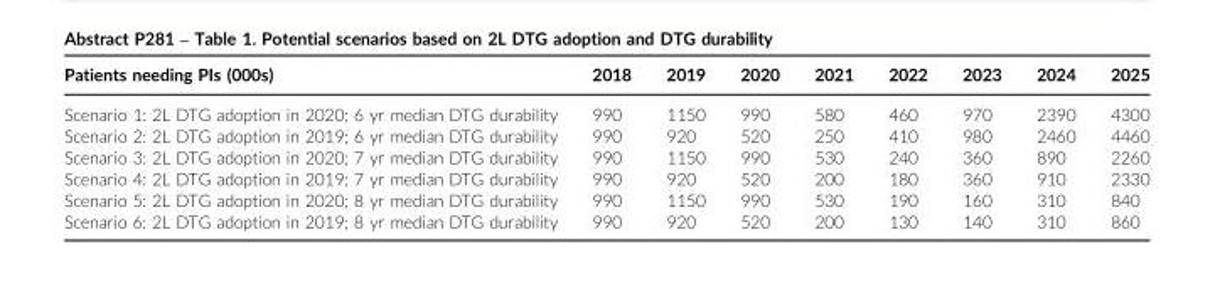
<table><thead><tr><td>Patients needing PIs (000s)</td><td>2018</td><td>2019</td><td>2020</td><td>2021</td><td>2022</td><td>2023</td><td>2024</td><td>2025</td></tr></thead><tbody><tr><td>Scenario 1: 2L DTG adoption in 2020; 6 yr median DTG durability</td><td>990</td><td>1150</td><td>990</td><td>580</td><td>460</td><td>970</td><td>2390</td><td>4300</td></tr><tr><td>Scenario 2: 2L DTG adoption in 2019; 6 yr median DTG durability</td><td>990</td><td>920</td><td>520</td><td>250</td><td>410</td><td>980</td><td>2460</td><td>4460</td></tr><tr><td>Scenario 3: 2L DTG adoption in 2020; 7 yr median DTG durability</td><td>990</td><td>1150</td><td>990</td><td>530</td><td>240</td><td>360</td><td>890</td><td>2260</td></tr><tr><td>Scenario 4: 2L DTG adoption in 2019; 7 yr median DTG durability</td><td>990</td><td>920</td><td>520</td><td>200</td><td>180</td><td>360</td><td>910</td><td>2330</td></tr><tr><td>Scenario 5: 2L DTG adoption in 2020; 8 yr median DTG durability</td><td>990</td><td>1150</td><td>990</td><td>530</td><td>190</td><td>160</td><td>310</td><td>840</td></tr><tr><td>Scenario 6: 2L DTG adoption in 2019; 8 yr median DTG durability</td><td>990</td><td>920</td><td>520</td><td>200</td><td>130</td><td>140</td><td>310</td><td>860</td></tr></tbody></table>